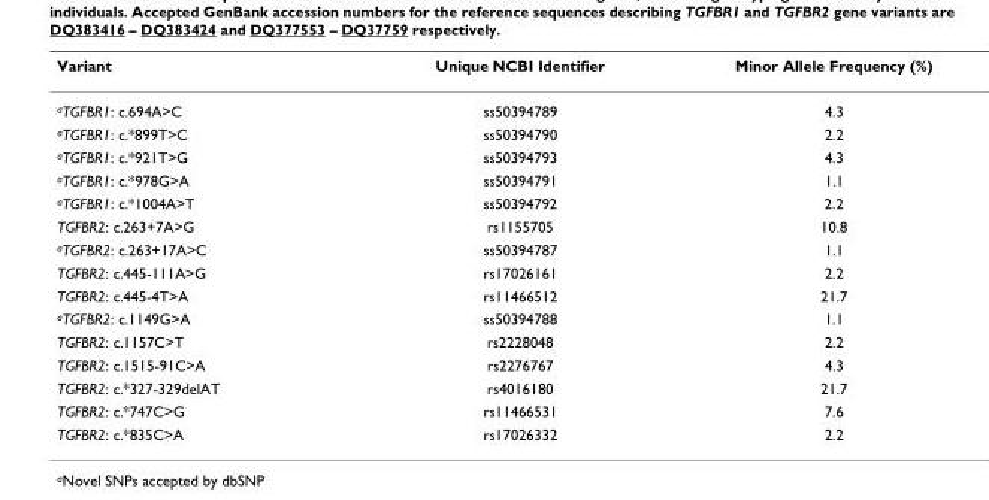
<table><thead><tr><td>Variant</td><td>Unique NCBI Identifier</td><td>Minor Allele Frequency (%)</td></tr></thead><tbody><tr><td><sup>a</sup>TGFBR1: c.694A&gt;C</td><td>ss50394789</td><td>4.3</td></tr><tr><td><sup>a</sup>TGFBR1: c.*899T&gt;C</td><td>ss50394790</td><td>2.2</td></tr><tr><td><sup>a</sup>TGFBR1: c.*921T&gt;G</td><td>ss50394793</td><td>4.3</td></tr><tr><td><sup>a</sup>TGFBR1: c.*978G&gt;A</td><td>ss50394791</td><td>1.1</td></tr><tr><td><sup>a</sup>TGFBR1: c.*1004A&gt;T</td><td>ss50394792</td><td>2.2</td></tr><tr><td>TGFBR2: c.263+7A&gt;G</td><td>rs1155705</td><td>10.8</td></tr><tr><td><sup>a</sup>TGFBR2: c.263+17A&gt;C</td><td>ss50394787</td><td>1.1</td></tr><tr><td>TGFBR2: c.445-111A&gt;G</td><td>rs17026161</td><td>2.2</td></tr><tr><td>TGFBR2: c.445-4T&gt;A</td><td>rs11466512</td><td>21.7</td></tr><tr><td><sup>a</sup>TGFBR2: c.1149G&gt;A</td><td>ss50394788</td><td>1.1</td></tr><tr><td>TGFBR2: c.1157C&gt;T</td><td>rs2228048</td><td>2.2</td></tr><tr><td>TGFBR2: c.1515-91C&gt;A</td><td>rs2276767</td><td>4.3</td></tr><tr><td>TGFBR2: c.*327-329delAT</td><td>rs4016180</td><td>21.7</td></tr><tr><td>TGFBR2: c.*747C&gt;G</td><td>rs11466531</td><td>7.6</td></tr><tr><td>TGFBR2: c.*835C&gt;A</td><td>rs17026332</td><td>2.2</td></tr></tbody></table>